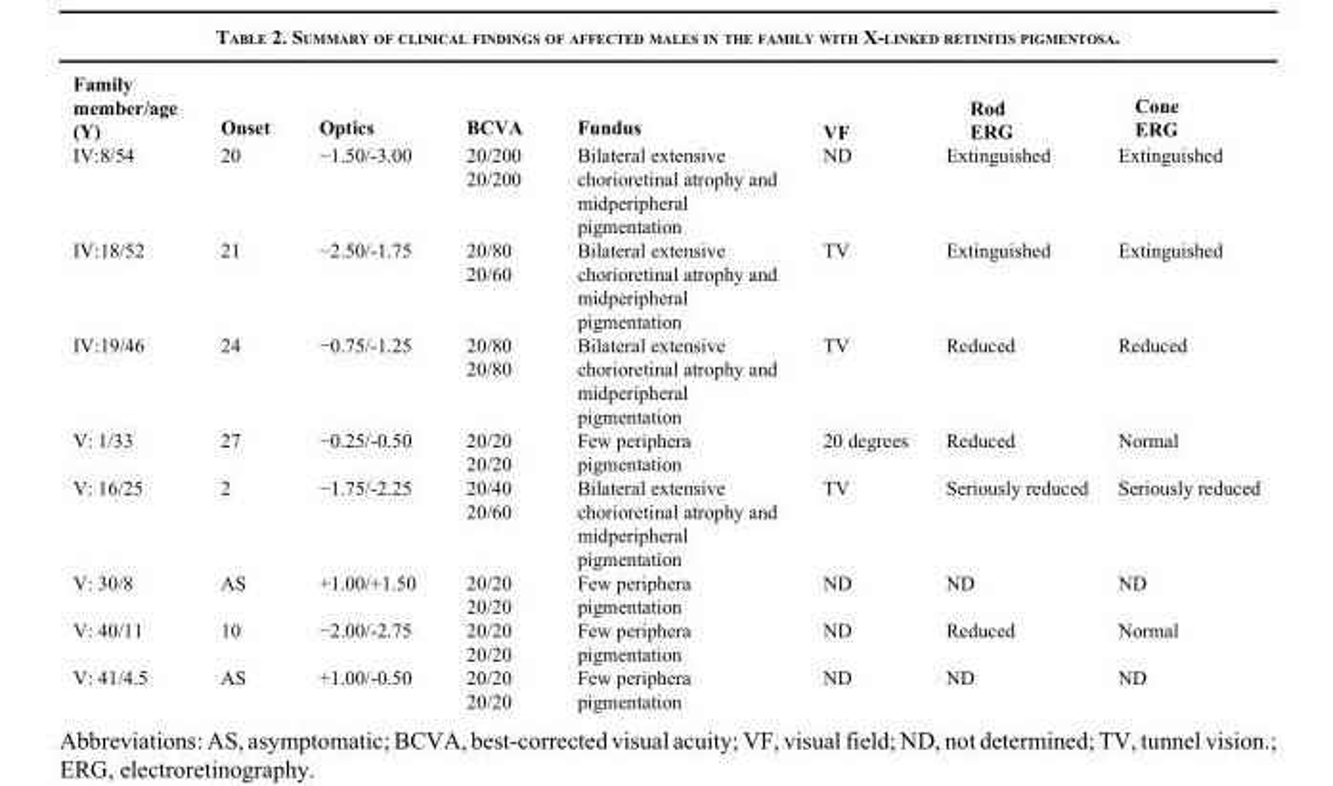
<table><thead><tr><td>Family member/age (Y)</td><td>Onset</td><td>Optics</td><td>BCVA</td><td>Fundus</td><td>VF</td><td>Rod ERG</td><td>Cone ERG</td></tr></thead><tbody><tr><td>IV:8/54</td><td>20</td><td>−1.50/-3.00</td><td>20/200 20/200</td><td>Bilateral extensive chorioretinal atrophy and midperipheral pigmentation</td><td>ND</td><td>Extinguished</td><td>Extinguished</td></tr><tr><td>IV:18/52</td><td>21</td><td>−2.50/-1.75</td><td>20/80 20/60</td><td>Bilateral extensive chorioretinal atrophy and midperipheral pigmentation</td><td>TV</td><td>Extinguished</td><td>Extinguished</td></tr><tr><td>IV:19/46</td><td>24</td><td>−0.75/-1.25</td><td>20/80 20/80</td><td>Bilateral extensive chorioretinal atrophy and midperipheral pigmentation</td><td>TV</td><td>Reduced</td><td>Reduced</td></tr><tr><td>V: 1/33</td><td>27</td><td>−0.25/-0.50</td><td>20/20 20/20</td><td>Few periphera pigmentation</td><td>20 degrees</td><td>Reduced</td><td>Normal</td></tr><tr><td>V: 16/25</td><td>2</td><td>−1.75/-2.25</td><td>20/40 20/60</td><td>Bilateral extensive chorioretinal atrophy and midperipheral pigmentation</td><td>TV</td><td>Seriously reduced</td><td>Seriously reduced</td></tr><tr><td>V: 30/8</td><td>AS</td><td>+1.00/+1.50</td><td>20/20 20/20</td><td>Few periphera pigmentation</td><td>ND</td><td>ND</td><td>ND</td></tr><tr><td>V: 40/11</td><td>10</td><td>−2.00/-2.75</td><td>20/20 20/20</td><td>Few periphera pigmentation</td><td>ND</td><td>Reduced</td><td>Normal</td></tr><tr><td>V: 41/4.5</td><td>AS</td><td>+1.00/-0.50</td><td>20/20 20/20</td><td>Few periphera pigmentation</td><td>ND</td><td>ND</td><td>ND</td></tr></tbody></table>